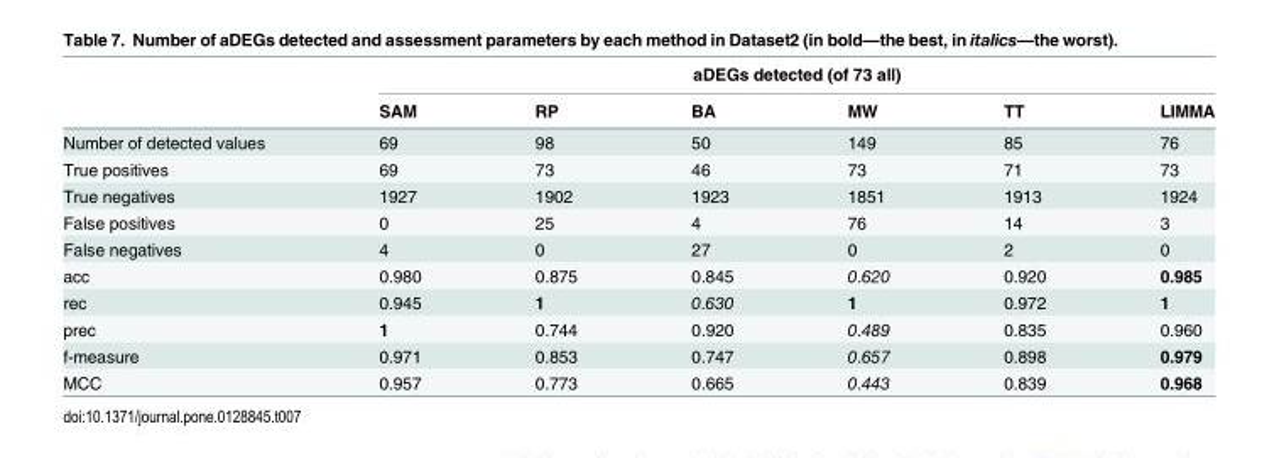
<table><thead><tr><td rowspan="2"></td><td colspan="6">aDEGs detected (of 73 all)</td></tr><tr><td>SAM</td><td>RP</td><td>BA</td><td>MW</td><td>TT</td><td>LIMMA</td></tr></thead><tbody><tr><td>Number of detected values</td><td>69</td><td>98</td><td>50</td><td>149</td><td>85</td><td>76</td></tr><tr><td>True positives</td><td>69</td><td>73</td><td>46</td><td>73</td><td>71</td><td>73</td></tr><tr><td>True negatives</td><td>1927</td><td>1902</td><td>1923</td><td>1851</td><td>1913</td><td>1924</td></tr><tr><td>False positives</td><td>0</td><td>25</td><td>4</td><td>76</td><td>14</td><td>3</td></tr><tr><td>False negatives</td><td>4</td><td>0</td><td>27</td><td>0</td><td>2</td><td>0</td></tr><tr><td>acc</td><td>0.980</td><td>0.875</td><td>0.845</td><td>0.620</td><td>0.920</td><td>0.985</td></tr><tr><td>rec</td><td>0.945</td><td>1</td><td>0.630</td><td>1</td><td>0.972</td><td>1</td></tr><tr><td>prec</td><td>1</td><td>0.744</td><td>0.920</td><td>0.489</td><td>0.835</td><td>0.960</td></tr><tr><td>f-measure</td><td>0.971</td><td>0.853</td><td>0.747</td><td>0.657</td><td>0.898</td><td>0.979</td></tr><tr><td>MCC</td><td>0.957</td><td>0.773</td><td>0.665</td><td>0.443</td><td>0.839</td><td>0.968</td></tr></tbody></table>